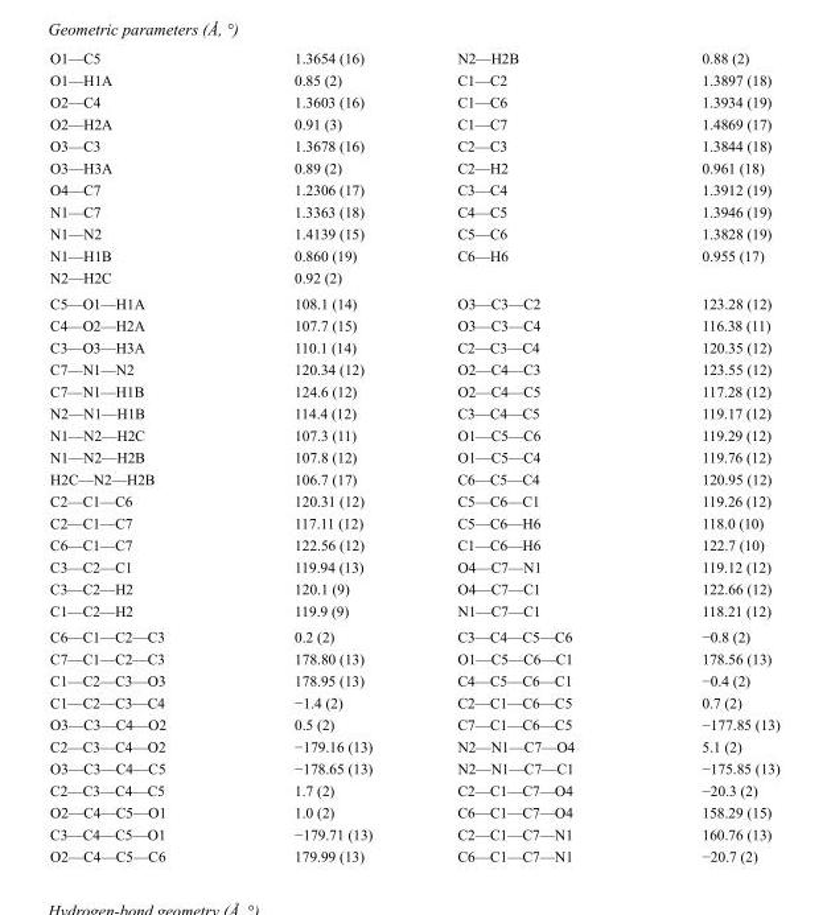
<table><tbody><tr><td>O1—C5</td><td>1.3654 (16)</td><td>N2—H2B</td><td>0.88 (2)</td></tr><tr><td>O1—H1A</td><td>0.85 (2)</td><td>C1—C2</td><td>1.3897 (18)</td></tr><tr><td>O2—C4</td><td>1.3603 (16)</td><td>C1—C6</td><td>1.3934 (19)</td></tr><tr><td>O2—H2A</td><td>0.91 (3)</td><td>C1—C7</td><td>1.4869 (17)</td></tr><tr><td>O3—C3</td><td>1.3678 (16)</td><td>C2—C3</td><td>1.3844 (18)</td></tr><tr><td>O3—H3A</td><td>0.89 (2)</td><td>C2—H2</td><td>0.961 (18)</td></tr><tr><td>O4—C7</td><td>1.2306 (17)</td><td>C3—C4</td><td>1.3912 (19)</td></tr><tr><td>N1—C7</td><td>1.3363 (18)</td><td>C4—C5</td><td>1.3946 (19)</td></tr><tr><td>N1—N2</td><td>1.4139 (15)</td><td>C5—C6</td><td>1.3828 (19)</td></tr><tr><td>N1—H1B</td><td>0.860 (19)</td><td>C6—H6</td><td>0.955 (17)</td></tr><tr><td>N2—H2C</td><td>0.92 (2)</td><td></td><td></td></tr><tr><td>C5—O1—H1A</td><td>108.1 (14)</td><td>O3—C3—C2</td><td>123.28 (12)</td></tr><tr><td>C4—O2—H2A</td><td>107.7 (15)</td><td>O3—C3—C4</td><td>116.38 (11)</td></tr><tr><td>C3—O3—H3A</td><td>110.1 (14)</td><td>C2—C3—C4</td><td>120.35 (12)</td></tr><tr><td>C7—N1—N2</td><td>120.34 (12)</td><td>O2—C4—C3</td><td>123.55 (12)</td></tr><tr><td>C7—N1—H1B</td><td>124.6 (12)</td><td>O2—C4—C5</td><td>117.28 (12)</td></tr><tr><td>N2—N1—H1B</td><td>114.4 (12)</td><td>C3—C4—C5</td><td>119.17 (12)</td></tr><tr><td>N1—N2—H2C</td><td>107.3 (11)</td><td>O1—C5—C6</td><td>119.29 (12)</td></tr><tr><td>N1—N2—H2B</td><td>107.8 (12)</td><td>O1—C5—C4</td><td>119.76 (12)</td></tr><tr><td>H2C—N2—H2B</td><td>106.7 (17)</td><td>C6—C5—C4</td><td>120.95 (12)</td></tr><tr><td>C2—C1—C6</td><td>120.31 (12)</td><td>C5—C6—C1</td><td>119.26 (12)</td></tr><tr><td>C2—C1—C7</td><td>117.11 (12)</td><td>C5—C6—H6</td><td>118.0 (10)</td></tr><tr><td>C6—C1—C7</td><td>122.56 (12)</td><td>C1—C6—H6</td><td>122.7 (10)</td></tr><tr><td>C3—C2—C1</td><td>119.94 (13)</td><td>O4—C7—N1</td><td>119.12 (12)</td></tr><tr><td>C3—C2—H2</td><td>120.1 (9)</td><td>O4—C7—C1</td><td>122.66 (12)</td></tr><tr><td>C1—C2—H2</td><td>119.9 (9)</td><td>N1—C7—C1</td><td>118.21 (12)</td></tr><tr><td>C6—C1—C2—C3</td><td>0.2 (2)</td><td>C3—C4—C5—C6</td><td>−0.8 (2)</td></tr><tr><td>C7—C1—C2—C3</td><td>178.80 (13)</td><td>O1—C5—C6—C1</td><td>178.56 (13)</td></tr><tr><td>C1—C2—C3—O3</td><td>178.95 (13)</td><td>C4—C5—C6—C1</td><td>−0.4 (2)</td></tr><tr><td>C1—C2—C3—C4</td><td>−1.4 (2)</td><td>C2—C1—C6—C5</td><td>0.7 (2)</td></tr><tr><td>O3—C3—C4—O2</td><td>0.5 (2)</td><td>C7—C1—C6—C5</td><td>−177.85 (13)</td></tr><tr><td>C2—C3—C4—O2</td><td>−179.16 (13)</td><td>N2—N1—C7—O4</td><td>5.1 (2)</td></tr><tr><td>O3—C3—C4—C5</td><td>−178.65 (13)</td><td>N2—N1—C7—C1</td><td>−175.85 (13)</td></tr><tr><td>C2—C3—C4—C5</td><td>1.7 (2)</td><td>C2—C1—C7—O4</td><td>−20.3 (2)</td></tr><tr><td>O2—C4—C5—O1</td><td>1.0 (2)</td><td>C6—C1—C7—O4</td><td>158.29 (15)</td></tr><tr><td>C3—C4—C5—O1</td><td>−179.71 (13)</td><td>C2—C1—C7—N1</td><td>160.76 (13)</td></tr><tr><td>O2—C4—C5—C6</td><td>179.99 (13)</td><td>C6—C1—C7—N1</td><td>−20.7 (2)</td></tr></tbody></table>